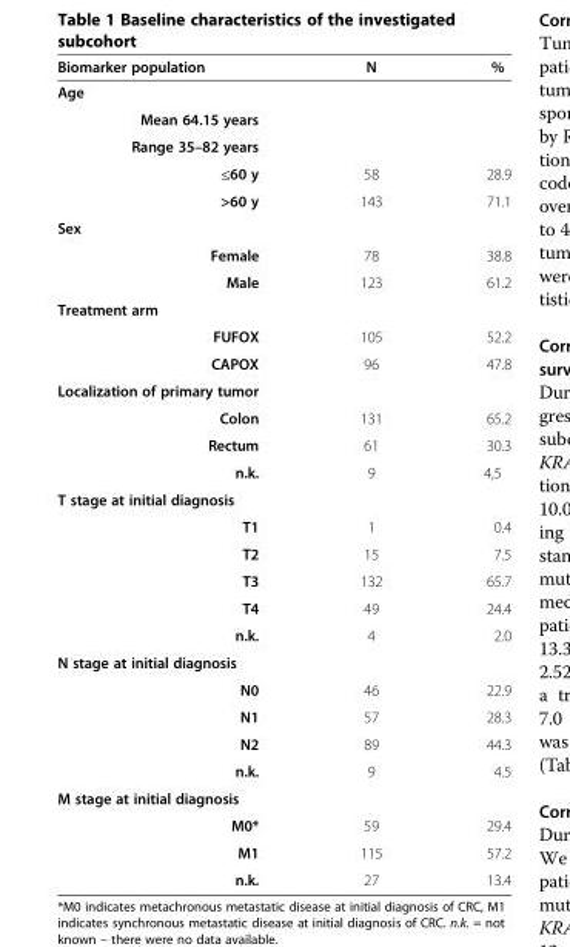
<table><thead><tr><td>Biomarker population</td><td>N</td><td>%</td></tr></thead><tbody><tr><td colspan="3">Age</td></tr><tr><td colspan="3">Mean 64.15 years</td></tr><tr><td colspan="3">Range 35–82 years</td></tr><tr><td>≤60 y</td><td>58</td><td>28.9</td></tr><tr><td>&gt;60 y</td><td>143</td><td>71.1</td></tr><tr><td colspan="3">Sex</td></tr><tr><td>Female</td><td>78</td><td>38.8</td></tr><tr><td>Male</td><td>123</td><td>61.2</td></tr><tr><td colspan="3">Treatment arm</td></tr><tr><td>FUFOX</td><td>105</td><td>52.2</td></tr><tr><td>CAPOX</td><td>96</td><td>47.8</td></tr><tr><td colspan="3">Localization of primary tumor</td></tr><tr><td>Colon</td><td>131</td><td>65.2</td></tr><tr><td>Rectum</td><td>61</td><td>30.3</td></tr><tr><td>n.k.</td><td>9</td><td>4,5</td></tr><tr><td colspan="3">T stage at initial diagnosis</td></tr><tr><td>T1</td><td>1</td><td>0.4</td></tr><tr><td>T2</td><td>15</td><td>7.5</td></tr><tr><td>T3</td><td>132</td><td>65.7</td></tr><tr><td>T4</td><td>49</td><td>24.4</td></tr><tr><td>n.k.</td><td>4</td><td>2.0</td></tr><tr><td colspan="3">N stage at initial diagnosis</td></tr><tr><td>N0</td><td>46</td><td>22.9</td></tr><tr><td>N1</td><td>57</td><td>28.3</td></tr><tr><td>N2</td><td>89</td><td>44.3</td></tr><tr><td>n.k.</td><td>9</td><td>4.5</td></tr><tr><td colspan="3">M stage at initial diagnosis</td></tr><tr><td>M0*</td><td>59</td><td>29.4</td></tr><tr><td>M1</td><td>115</td><td>57.2</td></tr><tr><td>n.k.</td><td>27</td><td>13.4</td></tr></tbody></table>